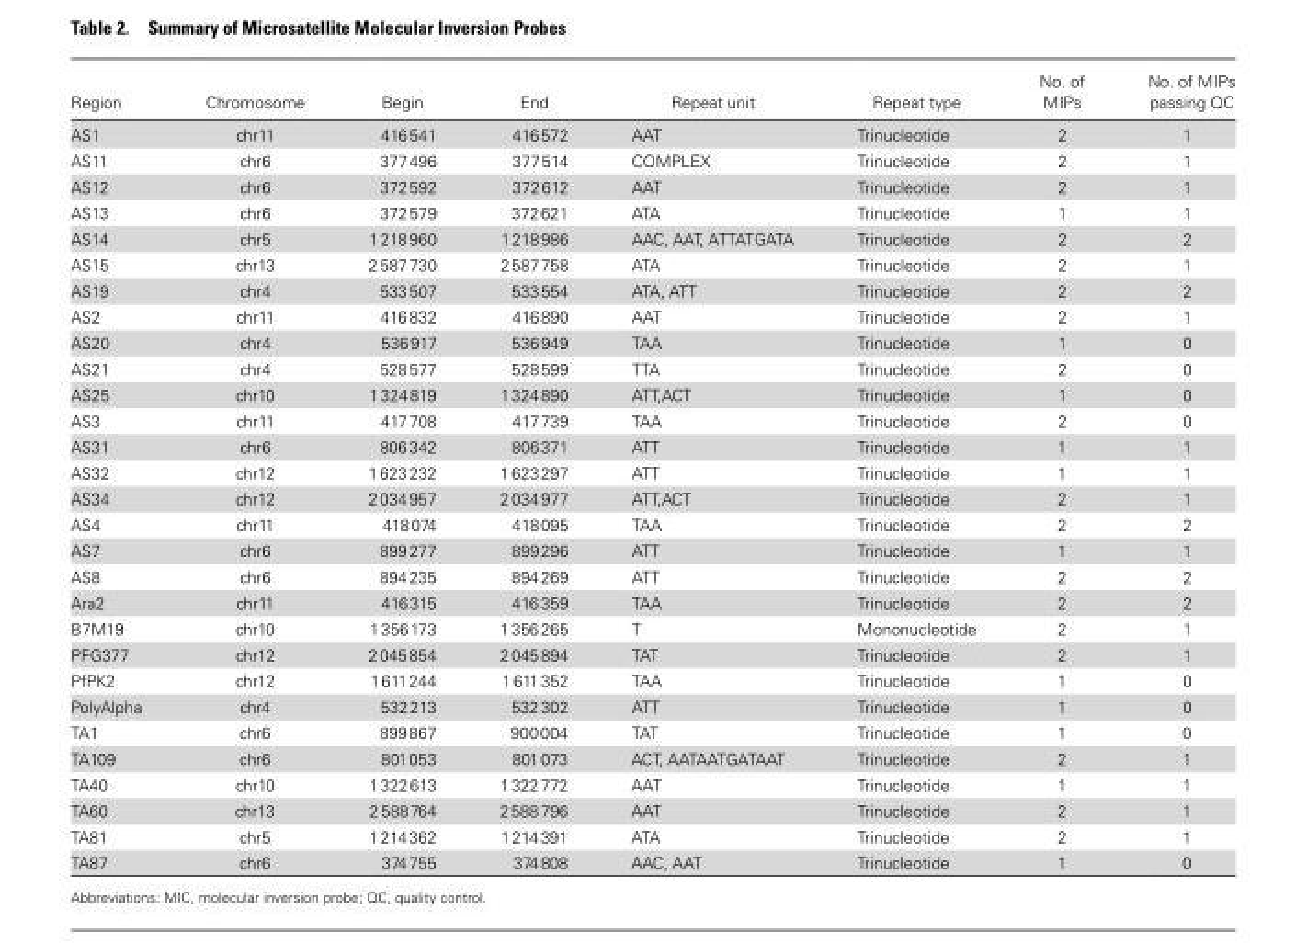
<table><thead><tr><td>Region</td><td>Chromosome</td><td>Begin</td><td>End</td><td>Repeat unit</td><td>Repeat type</td><td>No. of MIPs</td><td>No. of MIPs passing QC</td></tr></thead><tbody><tr><td>AS1</td><td>chr11</td><td>416 541</td><td>416 572</td><td>AAT</td><td>Trinucleotide</td><td>2</td><td>1</td></tr><tr><td>AS11</td><td>chr6</td><td>377 496</td><td>377 514</td><td>COMPLEX</td><td>Trinucleotide</td><td>2</td><td>1</td></tr><tr><td>AS12</td><td>chr6</td><td>372 592</td><td>372 612</td><td>AAT</td><td>Trinucleotide</td><td>2</td><td>1</td></tr><tr><td>AS13</td><td>chr6</td><td>372 579</td><td>372 621</td><td>ATA</td><td>Trinucleotide</td><td>1</td><td>1</td></tr><tr><td>AS14</td><td>chr5</td><td>1 218 960</td><td>1 218 986</td><td>AAC, AAT, ATTATGATA</td><td>Trinucleotide</td><td>2</td><td>2</td></tr><tr><td>AS15</td><td>chr13</td><td>2 587 730</td><td>2 587 758</td><td>ATA</td><td>Trinucleotide</td><td>2</td><td>1</td></tr><tr><td>AS19</td><td>chr4</td><td>533 507</td><td>533 554</td><td>ATA, ATT</td><td>Trinucleotide</td><td>2</td><td>2</td></tr><tr><td>AS2</td><td>chr11</td><td>416 832</td><td>416 890</td><td>AAT</td><td>Trinucleotide</td><td>2</td><td>1</td></tr><tr><td>AS20</td><td>chr4</td><td>536 917</td><td>536 949</td><td>TAA</td><td>Trinucleotide</td><td>1</td><td>0</td></tr><tr><td>AS21</td><td>chr4</td><td>528 577</td><td>528 599</td><td>TTA</td><td>Trinucleotide</td><td>2</td><td>0</td></tr><tr><td>AS25</td><td>chr10</td><td>1 324 819</td><td>1 324 890</td><td>ATT,ACT</td><td>Trinucleotide</td><td>1</td><td>0</td></tr><tr><td>AS3</td><td>chr11</td><td>417 708</td><td>417 739</td><td>TAA</td><td>Trinucleotide</td><td>2</td><td>0</td></tr><tr><td>AS31</td><td>chr6</td><td>806 342</td><td>806 371</td><td>ATT</td><td>Trinucleotide</td><td>1</td><td>1</td></tr><tr><td>AS32</td><td>chr12</td><td>1 623 232</td><td>1 623 297</td><td>ATT</td><td>Trinucleotide</td><td>1</td><td>1</td></tr><tr><td>AS34</td><td>chr12</td><td>2 034 957</td><td>2 034 977</td><td>ATT,ACT</td><td>Trinucleotide</td><td>2</td><td>1</td></tr><tr><td>AS4</td><td>chr11</td><td>418 074</td><td>418 095</td><td>TAA</td><td>Trinucleotide</td><td>2</td><td>2</td></tr><tr><td>AS7</td><td>chr6</td><td>899 277</td><td>899 296</td><td>ATT</td><td>Trinucleotide</td><td>1</td><td>1</td></tr><tr><td>AS8</td><td>chr6</td><td>894 235</td><td>894 269</td><td>ATT</td><td>Trinucleotide</td><td>2</td><td>2</td></tr><tr><td>Ara2</td><td>chr11</td><td>416 315</td><td>416 359</td><td>TAA</td><td>Trinucleotide</td><td>2</td><td>2</td></tr><tr><td>B7M19</td><td>chr10</td><td>1 356 173</td><td>1 356 265</td><td>T</td><td>Mononucleotide</td><td>2</td><td>1</td></tr><tr><td>PFG377</td><td>chr12</td><td>2 045 854</td><td>2 045 894</td><td>TAT</td><td>Trinucleotide</td><td>2</td><td>1</td></tr><tr><td>PfPK2</td><td>chr12</td><td>1 611 244</td><td>1 611 352</td><td>TAA</td><td>Trinucleotide</td><td>1</td><td>0</td></tr><tr><td>PolyAlpha</td><td>chr4</td><td>532 213</td><td>532 302</td><td>ATT</td><td>Trinucleotide</td><td>1</td><td>0</td></tr><tr><td>TA1</td><td>chr6</td><td>899 867</td><td>900 004</td><td>TAT</td><td>Trinucleotide</td><td>1</td><td>0</td></tr><tr><td>TA109</td><td>chr6</td><td>801 053</td><td>801 073</td><td>ACT, AATAATGATAAT</td><td>Trinucleotide</td><td>2</td><td>1</td></tr><tr><td>TA40</td><td>chr10</td><td>1 322 613</td><td>1 322 772</td><td>AAT</td><td>Trinucleotide</td><td>1</td><td>1</td></tr><tr><td>TA60</td><td>chr13</td><td>2 588 764</td><td>2 588 796</td><td>AAT</td><td>Trinucleotide</td><td>2</td><td>1</td></tr><tr><td>TA81</td><td>chr5</td><td>1 214 362</td><td>1 214 391</td><td>ATA</td><td>Trinucleotide</td><td>2</td><td>1</td></tr><tr><td>TA87</td><td>chr6</td><td>374 755</td><td>374 808</td><td>AAC, AAT</td><td>Trinucleotide</td><td>1</td><td>0</td></tr></tbody></table>